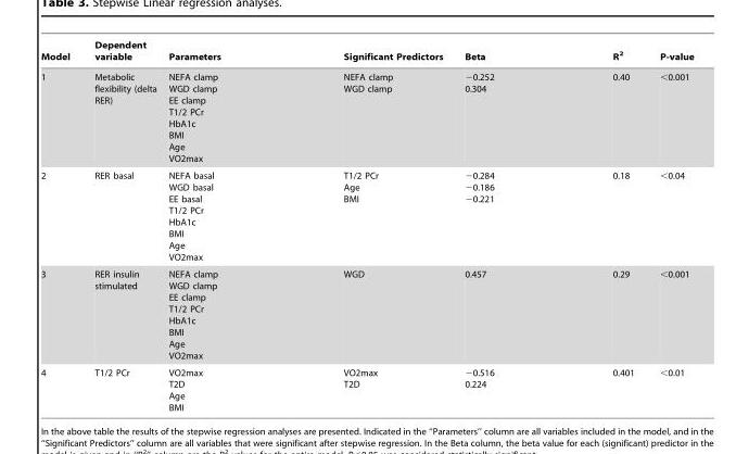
<table><thead><tr><td>Model</td><td>Dependent variable</td><td>Parameters</td><td>Significant Predictors</td><td>Beta</td><td>R<sup>2</sup></td><td>P-value</td></tr></thead><tbody><tr><td>1</td><td>Metabolic flexibility (delta RER)</td><td>NEFA clamp WGD clamp EE clamp T1/2 PCr HbA1c BMI Age VO2max</td><td>NEFA clamp WGD clamp</td><td>−0.252 0.304</td><td>0.40</td><td>&lt;0.001</td></tr><tr><td>2</td><td>RER basal</td><td>NEFA basal WGD basal EE basal T1/2 PCr HbA1c BMI Age VO2max</td><td>T1/2 PCr Age BMI</td><td>−0.284 −0.186 −0.221</td><td>0.18</td><td>&lt;0.04</td></tr><tr><td>3</td><td>RER insulin stimulated</td><td>NEFA clamp WGD clamp EE clamp T1/2 PCr HbA1c BMI Age VO2max</td><td>WGD</td><td>0.457</td><td>0.29</td><td>&lt;0.001</td></tr><tr><td>4</td><td>T1/2 PCr</td><td>VO2max T2D Age BMI</td><td>VO2max T2D</td><td>−0.516 0.224</td><td>0.401</td><td>&lt;0.01</td></tr></tbody></table>